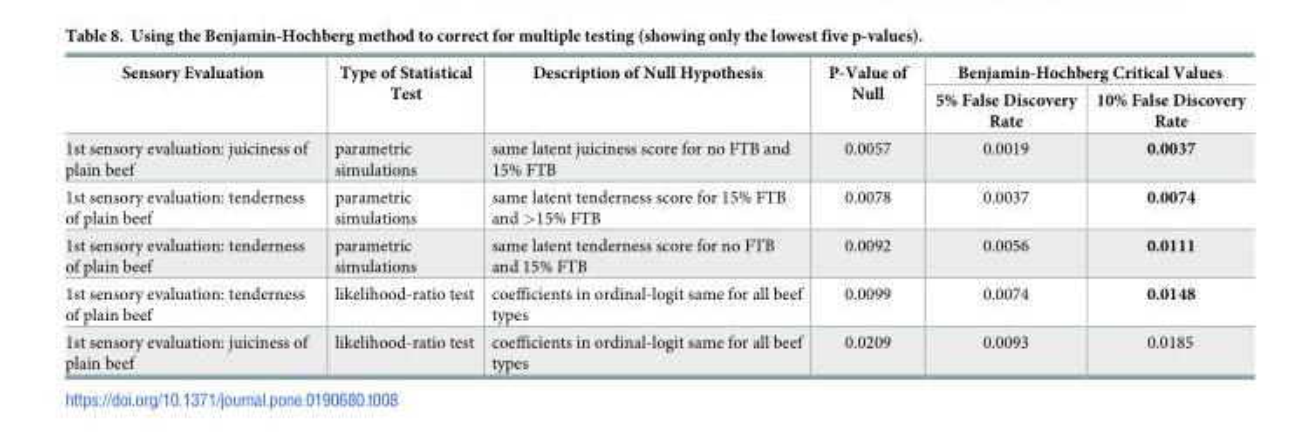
<table><thead><tr><td rowspan="2">Sensory Evaluation</td><td rowspan="2">Type of Statistical Test</td><td rowspan="2">Description of Null Hypothesis</td><td rowspan="2">P-Value of Null</td><td colspan="2">Benjamin-Hochberg Critical Values</td></tr><tr><td>5% False Discovery Rate</td><td>10% False Discovery Rate</td></tr></thead><tbody><tr><td>1st sensory evaluation: juiciness of plain beef</td><td>parametric simulations</td><td>same latent juiciness score for no FTB and 15% FTB</td><td>0.0057</td><td>0.0019</td><td>0.0037</td></tr><tr><td>1st sensory evaluation: tenderness of plain beef</td><td>parametric simulations</td><td>same latent tenderness score for 15% FTB and &gt;15% FTB</td><td>0.0078</td><td>0.0037</td><td>0.0074</td></tr><tr><td>1st sensory evaluation: tenderness of plain beef</td><td>parametric simulations</td><td>same latent tenderness score for no FTB and 15% FTB</td><td>0.0092</td><td>0.0056</td><td>0.0111</td></tr><tr><td>1st sensory evaluation: tenderness of plain beef</td><td>likelihood-ratio test</td><td>coefficients in ordinal-logit same for all beef types</td><td>0.0099</td><td>0.0074</td><td>0.0148</td></tr><tr><td>1st sensory evaluation: juiciness of plain beef</td><td>likelihood-ratio test</td><td>coefficients in ordinal-logit same for all beef types</td><td>0.0209</td><td>0.0093</td><td>0.0185</td></tr></tbody></table>